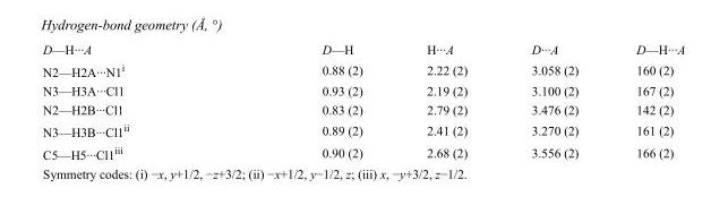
<table><tbody><tr><td>D—H···A</td><td>D—H</td><td>H···A</td><td>D···A</td><td>D—H···A</td></tr><tr><td>N2—H2A···N1<sup>i</sup></td><td>0.88 (2)</td><td>2.22 (2)</td><td>3.058 (2)</td><td>160 (2)</td></tr><tr><td>N3—H3A···Cl1</td><td>0.93 (2)</td><td>2.19 (2)</td><td>3.100 (2)</td><td>167 (2)</td></tr><tr><td>N2—H2B···Cl1</td><td>0.83 (2)</td><td>2.79 (2)</td><td>3.476 (2)</td><td>142 (2)</td></tr><tr><td>N3—H3B···Cl1<sup>ii</sup></td><td>0.89 (2)</td><td>2.41 (2)</td><td>3.270 (2)</td><td>161 (2)</td></tr><tr><td>C5—H5···Cl1<sup>iii</sup></td><td>0.90 (2)</td><td>2.68 (2)</td><td>3.556 (2)</td><td>166 (2)</td></tr></tbody></table>